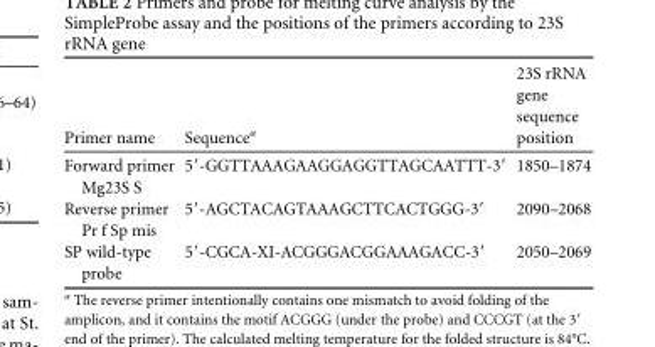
<table><thead><tr><td>Primer name</td><td>Sequence<sup>a</sup></td><td>23S rRNA gene sequence position</td></tr></thead><tbody><tr><td>Forward primer Mg23S S</td><td>5=-GGTTAAAGAAGGAGGTTAGCAATTT-3=</td><td>1850–1874</td></tr><tr><td>Reverse primer Pr f Sp mis</td><td>5=-AGCTACAGTAAAGCTTCACTGGG-3=</td><td>2090–2068</td></tr><tr><td>SP wild-type probe</td><td>5=-CGCA-XI-ACGGGACGGAAAGACC-3=</td><td>2050–2069</td></tr></tbody></table>